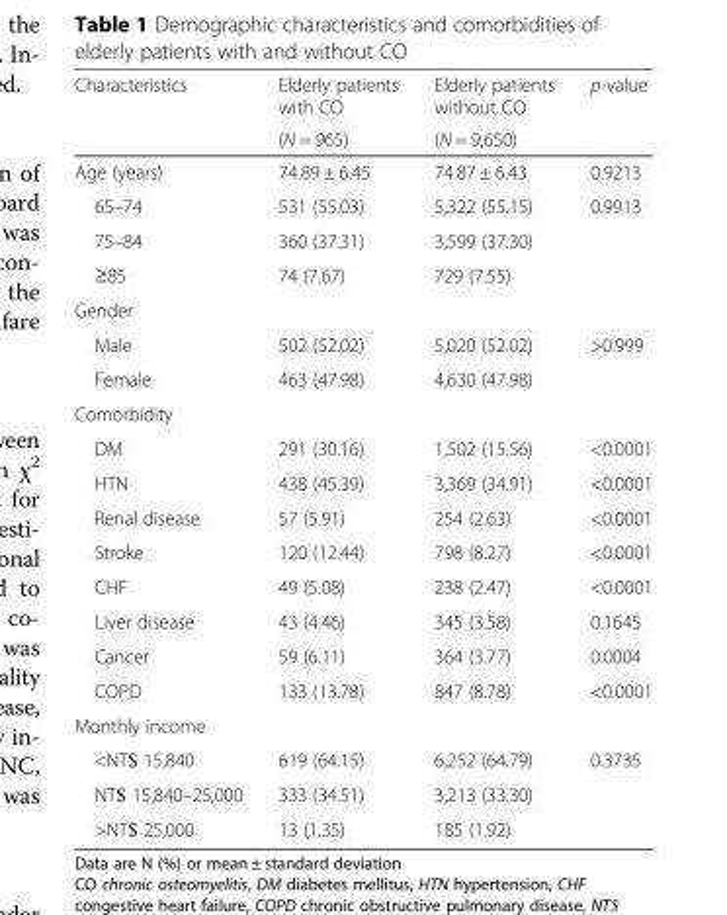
<table><thead><tr><td rowspan="2">Characteristics</td><td rowspan="2">Elderly patients with CO (N = 965)</td><td rowspan="2">Elderly patients without CO (N = 9,650)</td><td rowspan="2">p-value</td></tr><tr></tr></thead><tbody><tr><td>Age (years)</td><td>74.89 ± 6.45</td><td>74.87 ± 6.43</td><td>0.9213</td></tr><tr><td>65–74</td><td>531 (55.03)</td><td>5,322 (55.15)</td><td>0.9913</td></tr><tr><td>75–84</td><td>360 (37.31)</td><td>3,599 (37.30)</td><td></td></tr><tr><td>≥85</td><td>74 (7.67)</td><td>729 (7.55)</td><td></td></tr><tr><td colspan="4">Gender</td></tr><tr><td>Male</td><td>502 (52.02)</td><td>5,020 (52.02)</td><td>&gt;0.999</td></tr><tr><td>Female</td><td>463 (47.98)</td><td>4,630 (47.98)</td><td></td></tr><tr><td colspan="4">Comorbidity</td></tr><tr><td>DM</td><td>291 (30.16)</td><td>1,502 (15.56)</td><td>&lt;0.0001</td></tr><tr><td>HTN</td><td>438 (45.39)</td><td>3,369 (34.91)</td><td>&lt;0.0001</td></tr><tr><td>Renal disease</td><td>57 (5.91)</td><td>254 (2.63)</td><td>&lt;0.0001</td></tr><tr><td>Stroke</td><td>120 (12.44)</td><td>798 (8.27)</td><td>&lt;0.0001</td></tr><tr><td>CHF</td><td>49 (5.08)</td><td>238 (2.47)</td><td>&lt;0.0001</td></tr><tr><td>Liver disease</td><td>43 (4.46)</td><td>345 (3.58)</td><td>0.1645</td></tr><tr><td>Cancer</td><td>59 (6.11)</td><td>364 (3.77)</td><td>0.0004</td></tr><tr><td>COPD</td><td>133 (13.78)</td><td>847 (8.78)</td><td>&lt;0.0001</td></tr><tr><td colspan="4">Monthly income</td></tr><tr><td>&lt;NT$ 15,840</td><td>619 (64.15)</td><td>6,252 (64.79)</td><td>0.3735</td></tr><tr><td>NT$ 15,840–25,000</td><td>333 (34.51)</td><td>3,213 (33.30)</td><td></td></tr><tr><td>&gt;NT$ 25,000</td><td>13 (1.35)</td><td>185 (1.92)</td><td></td></tr></tbody></table>